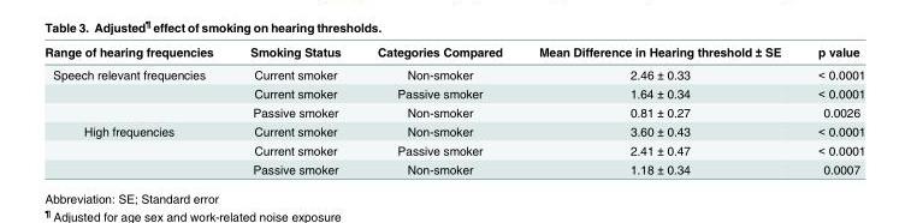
<table><thead><tr><td>Range of hearing frequencies</td><td>Smoking Status</td><td>Categories Compared</td><td>Mean Difference in Hearing threshold ± SE</td><td>p value</td></tr></thead><tbody><tr><td rowspan="3">Speech relevant frequencies</td><td>Current smoker</td><td>Non-smoker</td><td>2.46 ± 0.33</td><td>&lt; 0.0001</td></tr><tr><td>Current smoker</td><td>Passive smoker</td><td>1.64 ± 0.34</td><td>&lt; 0.0001</td></tr><tr><td>Passive smoker</td><td>Non-smoker</td><td>0.81 ± 0.27</td><td>0.0026</td></tr><tr><td rowspan="3">High frequencies</td><td>Current smoker</td><td>Non-smoker</td><td>3.60 ± 0.43</td><td>&lt; 0.0001</td></tr><tr><td>Current smoker</td><td>Passive smoker</td><td>2.41 ± 0.47</td><td>&lt; 0.0001</td></tr><tr><td>Passive smoker</td><td>Non-smoker</td><td>1.18 ± 0.34</td><td>0.0007</td></tr></tbody></table>